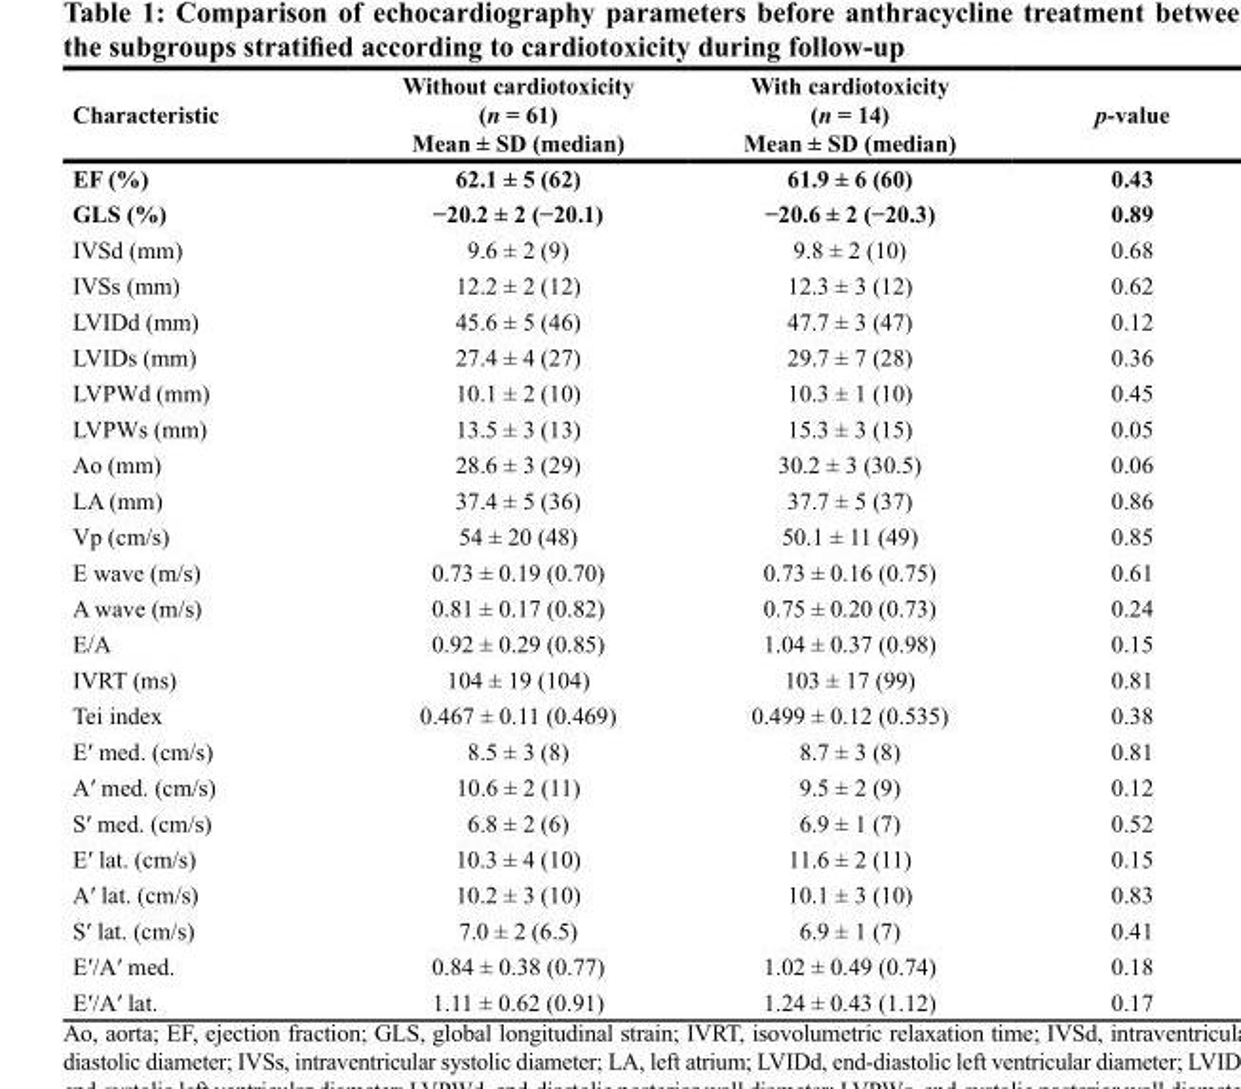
<table><thead><tr><td>Characteristic</td><td>Without cardiotoxicity (n = 61) Mean ± SD (median)</td><td>With cardiotoxicity (n = 14) Mean ± SD (median)</td><td>p-value</td></tr></thead><tbody><tr><td>EF (%)</td><td>62.1 ± 5 (62)</td><td>61.9 ± 6 (60)</td><td>0.43</td></tr><tr><td>GLS (%)</td><td>−20.2 ± 2 (−20.1)</td><td>−20.6 ± 2 (−20.3)</td><td>0.89</td></tr><tr><td>IVSd (mm)</td><td>9.6 ± 2 (9)</td><td>9.8 ± 2 (10)</td><td>0.68</td></tr><tr><td>IVSs (mm)</td><td>12.2 ± 2 (12)</td><td>12.3 ± 3 (12)</td><td>0.62</td></tr><tr><td>LVIDd (mm)</td><td>45.6 ± 5 (46)</td><td>47.7 ± 3 (47)</td><td>0.12</td></tr><tr><td>LVIDs (mm)</td><td>27.4 ± 4 (27)</td><td>29.7 ± 7 (28)</td><td>0.36</td></tr><tr><td>LVPWd (mm)</td><td>10.1 ± 2 (10)</td><td>10.3 ± 1 (10)</td><td>0.45</td></tr><tr><td>LVPWs (mm)</td><td>13.5 ± 3 (13)</td><td>15.3 ± 3 (15)</td><td>0.05</td></tr><tr><td>Ao (mm)</td><td>28.6 ± 3 (29)</td><td>30.2 ± 3 (30.5)</td><td>0.06</td></tr><tr><td>LA (mm)</td><td>37.4 ± 5 (36)</td><td>37.7 ± 5 (37)</td><td>0.86</td></tr><tr><td>Vp (cm/s)</td><td>54 ± 20 (48)</td><td>50.1 ± 11 (49)</td><td>0.85</td></tr><tr><td>E wave (m/s)</td><td>0.73 ± 0.19 (0.70)</td><td>0.73 ± 0.16 (0.75)</td><td>0.61</td></tr><tr><td>A wave (m/s)</td><td>0.81 ± 0.17 (0.82)</td><td>0.75 ± 0.20 (0.73)</td><td>0.24</td></tr><tr><td>E/A</td><td>0.92 ± 0.29 (0.85)</td><td>1.04 ± 0.37 (0.98)</td><td>0.15</td></tr><tr><td>IVRT (ms)</td><td>104 ± 19 (104)</td><td>103 ± 17 (99)</td><td>0.81</td></tr><tr><td>Tei index</td><td>0.467 ± 0.11 (0.469)</td><td>0.499 ± 0.12 (0.535)</td><td>0.38</td></tr><tr><td>E′ med. (cm/s)</td><td>8.5 ± 3 (8)</td><td>8.7 ± 3 (8)</td><td>0.81</td></tr><tr><td>A′ med. (cm/s)</td><td>10.6 ± 2 (11)</td><td>9.5 ± 2 (9)</td><td>0.12</td></tr><tr><td>S′ med. (cm/s)</td><td>6.8 ± 2 (6)</td><td>6.9 ± 1 (7)</td><td>0.52</td></tr><tr><td>E′ lat. (cm/s)</td><td>10.3 ± 4 (10)</td><td>11.6 ± 2 (11)</td><td>0.15</td></tr><tr><td>A′ lat. (cm/s)</td><td>10.2 ± 3 (10)</td><td>10.1 ± 3 (10)</td><td>0.83</td></tr><tr><td>S′ lat. (cm/s)</td><td>7.0 ± 2 (6.5)</td><td>6.9 ± 1 (7)</td><td>0.41</td></tr><tr><td>E′/A′ med.</td><td>0.84 ± 0.38 (0.77)</td><td>1.02 ± 0.49 (0.74)</td><td>0.18</td></tr><tr><td>E′/A′ lat.</td><td>1.11 ± 0.62 (0.91)</td><td>1.24 ± 0.43 (1.12)</td><td>0.17</td></tr></tbody></table>